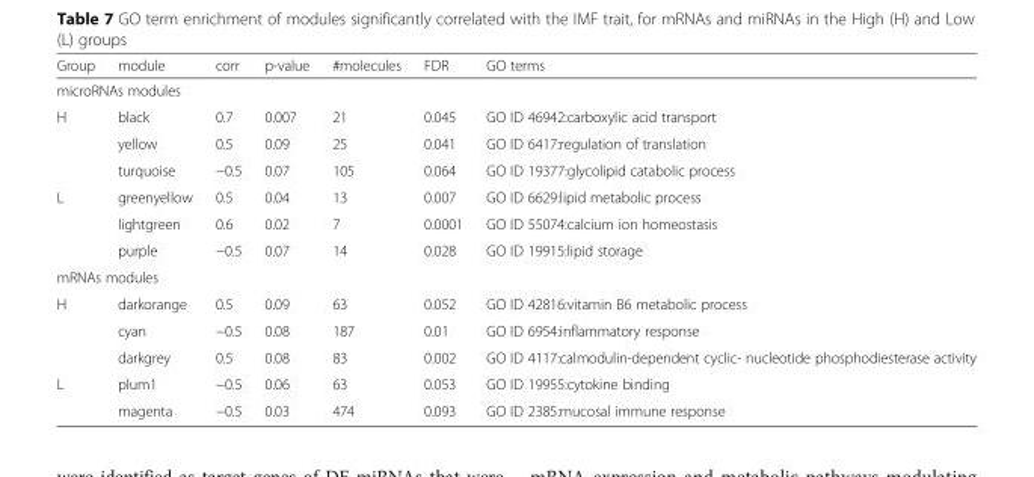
<table><thead><tr><td>Group</td><td>module</td><td>corr</td><td>p-value</td><td>#molecules</td><td>FDR</td><td>GO terms</td></tr></thead><tbody><tr><td colspan="7">microRNAs modules</td></tr><tr><td rowspan="3">H</td><td>black</td><td>0.7</td><td>0.007</td><td>21</td><td>0.045</td><td>GO ID 46942:carboxylic acid transport</td></tr><tr><td>yellow</td><td>0.5</td><td>0.09</td><td>25</td><td>0.041</td><td>GO ID 6417:regulation of translation</td></tr><tr><td>turquoise</td><td>−0.5</td><td>0.07</td><td>105</td><td>0.064</td><td>GO ID 19377:glycolipid catabolic process</td></tr><tr><td rowspan="3">L</td><td>greenyellow</td><td>0.5</td><td>0.04</td><td>13</td><td>0.007</td><td>GO ID 6629:lipid metabolic process</td></tr><tr><td>lightgreen</td><td>0.6</td><td>0.02</td><td>7</td><td>0.0001</td><td>GO ID 55074:calcium ion homeostasis</td></tr><tr><td>purple</td><td>−0.5</td><td>0.07</td><td>14</td><td>0.028</td><td>GO ID 19915:lipid storage</td></tr><tr><td colspan="7">mRNAs modules</td></tr><tr><td rowspan="3">H</td><td>darkorange</td><td>0.5</td><td>0.09</td><td>63</td><td>0.052</td><td>GO ID 42816:vitamin B6 metabolic process</td></tr><tr><td>cyan</td><td>−0.5</td><td>0.08</td><td>187</td><td>0.01</td><td>GO ID 6954:inflammatory response</td></tr><tr><td>darkgrey</td><td>0.5</td><td>0.08</td><td>83</td><td>0.002</td><td>GO ID 4117:calmodulin-dependent cyclic- nucleotide phosphodiesterase activity</td></tr><tr><td rowspan="2">L</td><td>plum1</td><td>−0.5</td><td>0.06</td><td>63</td><td>0.053</td><td>GO ID 19955:cytokine binding</td></tr><tr><td>magenta</td><td>−0.5</td><td>0.03</td><td>474</td><td>0.093</td><td>GO ID 2385:mucosal immune response</td></tr></tbody></table>